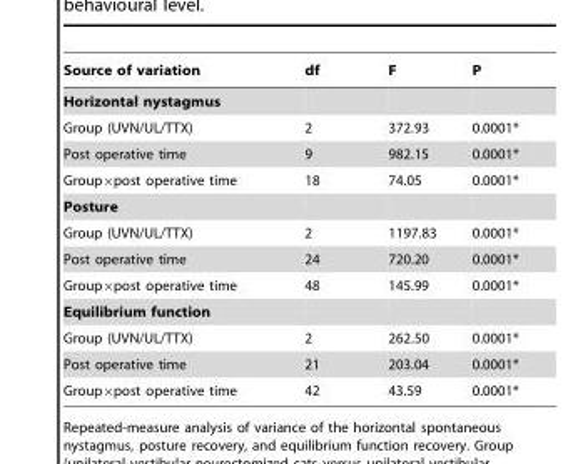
<table><thead><tr><td>Source of variation</td><td>df</td><td>F</td><td>P</td></tr></thead><tbody><tr><td colspan="4">Horizontal nystagmus</td></tr><tr><td>Group (UVN/UL/TTX)</td><td>2</td><td>372.93</td><td>0.0001*</td></tr><tr><td>Post operative time</td><td>9</td><td>982.15</td><td>0.0001*</td></tr><tr><td>Group×post operative time</td><td>18</td><td>74.05</td><td>0.0001*</td></tr><tr><td colspan="4">Posture</td></tr><tr><td>Group (UVN/UL/TTX)</td><td>2</td><td>1197.83</td><td>0.0001*</td></tr><tr><td>Post operative time</td><td>24</td><td>720.20</td><td>0.0001*</td></tr><tr><td>Group×post operative time</td><td>48</td><td>145.99</td><td>0.0001*</td></tr><tr><td colspan="4">Equilibrium function</td></tr><tr><td>Group (UVN/UL/TTX)</td><td>2</td><td>262.50</td><td>0.0001*</td></tr><tr><td>Post operative time</td><td>21</td><td>203.04</td><td>0.0001*</td></tr><tr><td>Group×post operative time</td><td>42</td><td>43.59</td><td>0.0001*</td></tr></tbody></table>